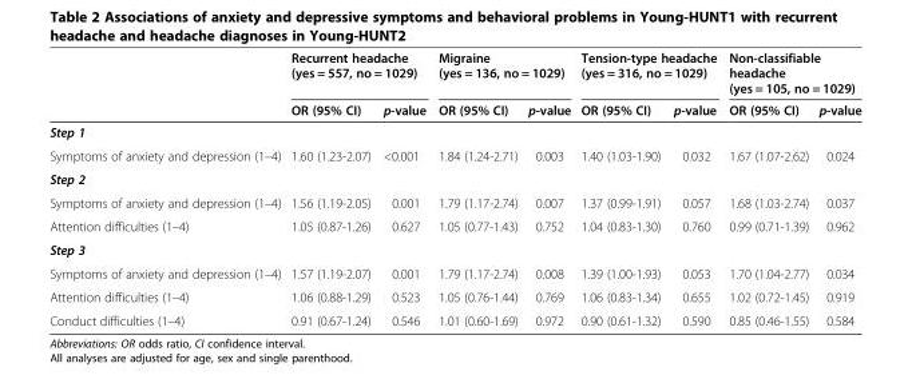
<table><thead><tr><td rowspan="2"></td><td colspan="2">Recurrent headache (yes = 557, no = 1029)</td><td colspan="2">Migraine (yes = 136, no = 1029)</td><td colspan="2">Tension-type headache (yes = 316, no = 1029)</td><td colspan="2">Non-classifiable headache (yes = 105, no = 1029)</td></tr><tr><td>OR (95% CI)</td><td>p-value</td><td>OR (95% CI)</td><td>p-value</td><td>OR (95% CI)</td><td>p-value</td><td>OR (95% CI)</td><td>p-value</td></tr></thead><tbody><tr><td colspan="9">Step 1</td></tr><tr><td>Symptoms of anxiety and depression (1–4)</td><td>1.60 (1.23-2.07)</td><td>&lt;0.001</td><td>1.84 (1.24-2.71)</td><td>0.003</td><td>1.40 (1.03-1.90)</td><td>0.032</td><td>1.67 (1.07-2.62)</td><td>0.024</td></tr><tr><td colspan="9">Step 2</td></tr><tr><td>Symptoms of anxiety and depression (1–4)</td><td>1.56 (1.19-2.05)</td><td>0.001</td><td>1.79 (1.17-2.74)</td><td>0.007</td><td>1.37 (0.99-1.91)</td><td>0.057</td><td>1.68 (1.03-2.74)</td><td>0.037</td></tr><tr><td>Attention difficulties (1–4)</td><td>1.05 (0.87-1.26)</td><td>0.627</td><td>1.05 (0.77-1.43)</td><td>0.752</td><td>1.04 (0.83-1.30)</td><td>0.760</td><td>0.99 (0.71-1.39)</td><td>0.962</td></tr><tr><td colspan="9">Step 3</td></tr><tr><td>Symptoms of anxiety and depression (1–4)</td><td>1.57 (1.19-2.07)</td><td>0.001</td><td>1.79 (1.17-2.74)</td><td>0.008</td><td>1.39 (1.00-1.93)</td><td>0.053</td><td>1.70 (1.04-2.77)</td><td>0.034</td></tr><tr><td>Attention difficulties (1–4)</td><td>1.06 (0.88-1.29)</td><td>0.523</td><td>1.05 (0.76-1.44)</td><td>0.769</td><td>1.06 (0.83-1.34)</td><td>0.655</td><td>1.02 (0.72-1.45)</td><td>0.919</td></tr><tr><td>Conduct difficulties (1–4)</td><td>0.91 (0.67-1.24)</td><td>0.546</td><td>1.01 (0.60-1.69)</td><td>0.972</td><td>0.90 (0.61-1.32)</td><td>0.590</td><td>0.85 (0.46-1.55)</td><td>0.584</td></tr></tbody></table>